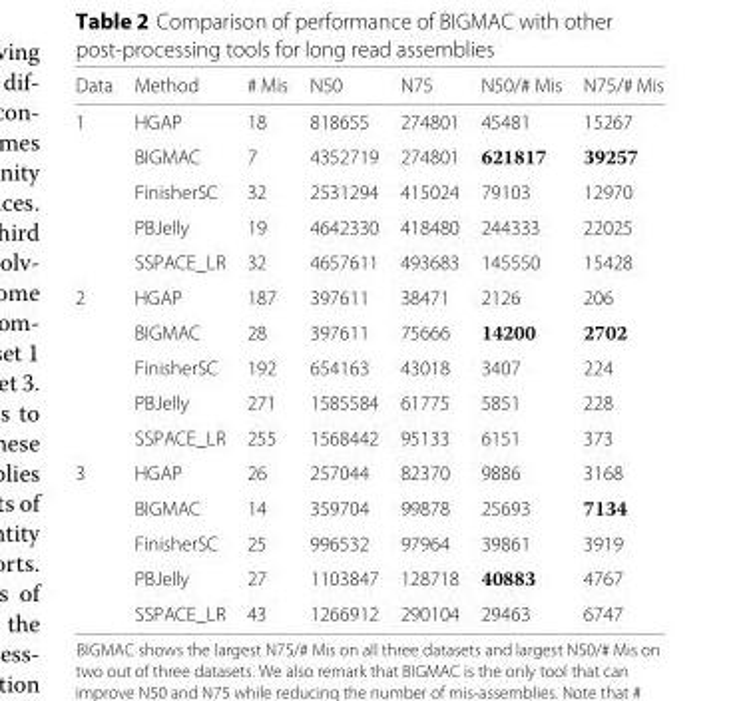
<table><thead><tr><td>Data</td><td>Method</td><td># Mis</td><td>N50</td><td>N75</td><td>N50/# Mis</td><td>N75/# Mis</td></tr></thead><tbody><tr><td rowspan="5">1</td><td>HGAP</td><td>18</td><td>818655</td><td>274801</td><td>45481</td><td>15267</td></tr><tr><td>BIGMAC</td><td>7</td><td>4352719</td><td>274801</td><td>621817</td><td>39257</td></tr><tr><td>FinisherSC</td><td>32</td><td>2531294</td><td>415024</td><td>79103</td><td>12970</td></tr><tr><td>PBJelly</td><td>19</td><td>4642330</td><td>418480</td><td>244333</td><td>22025</td></tr><tr><td>SSPACE_LR</td><td>32</td><td>4657611</td><td>493683</td><td>145550</td><td>15428</td></tr><tr><td rowspan="5">2</td><td>HGAP</td><td>187</td><td>397611</td><td>38471</td><td>2126</td><td>206</td></tr><tr><td>BIGMAC</td><td>28</td><td>397611</td><td>75666</td><td>14200</td><td>2702</td></tr><tr><td>FinisherSC</td><td>192</td><td>654163</td><td>43018</td><td>3407</td><td>224</td></tr><tr><td>PBJelly</td><td>271</td><td>1585584</td><td>61775</td><td>5851</td><td>228</td></tr><tr><td>SSPACE_LR</td><td>255</td><td>1568442</td><td>95133</td><td>6151</td><td>373</td></tr><tr><td rowspan="5">3</td><td>HGAP</td><td>26</td><td>257044</td><td>82370</td><td>9886</td><td>3168</td></tr><tr><td>BIGMAC</td><td>14</td><td>359704</td><td>99878</td><td>25693</td><td>7134</td></tr><tr><td>FinisherSC</td><td>25</td><td>996532</td><td>97964</td><td>39861</td><td>3919</td></tr><tr><td>PBJelly</td><td>27</td><td>1103847</td><td>128718</td><td>40883</td><td>4767</td></tr><tr><td>SSPACE_LR</td><td>43</td><td>1266912</td><td>290104</td><td>29463</td><td>6747</td></tr></tbody></table>